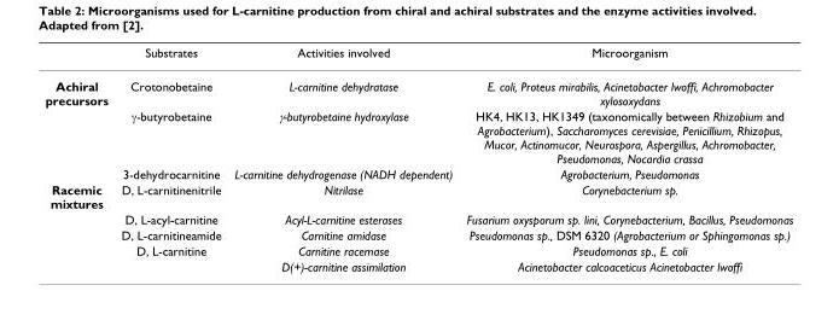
<table><thead><tr><td></td><td>Substrates</td><td>Activities involved</td><td>Microorganism</td></tr></thead><tbody><tr><td rowspan="3">Achiral precursors</td><td>Crotonobetaine</td><td>L-carnitine dehydratase</td><td>E. coli, Proteus mirabilis, Acinetobacter lwoffi, Achromobacter xylosoxydans</td></tr><tr><td>γ-butyrobetaine</td><td>γ-butyrobetaine hydroxylase</td><td>HK4, HK13, HK1349 (taxonomically between Rhizobium and Agrobacterium), Saccharomyces cerevisiae, Penicillium, Rhizopus, Mucor, Actinomucor, Neurospora, Aspergillus, Achromobacter, Pseudomonas, Nocardia crassa</td></tr><tr><td>3-dehydrocarnitine</td><td>L-carnitine dehydrogenase (NADH dependent)</td><td>Agrobacterium, Pseudomonas</td></tr><tr><td rowspan="5">Racemic mixtures</td><td>D, L-carnitinenitrile</td><td>Nitrilase</td><td>Corynebacterium sp.</td></tr><tr><td>D, L-acyl-carnitine</td><td>Acyl-L-carnitine esterases</td><td>Fusarium oxysporum sp. lini, Corynebacterium, Bacillus, Pseudomonas</td></tr><tr><td>D, L-carnitineamide</td><td>Carnitine amidase</td><td>Pseudomonas sp., DSM 6320 (Agrobacterium or Sphingomonas sp.)</td></tr><tr><td>D, L-carnitine</td><td>Carnitine racemase</td><td>Pseudomonas sp., E. coli</td></tr><tr><td></td><td>D(+)-carnitine assimilation</td><td>Acinetobacter calcoaceticus Acinetobacter lwoffi</td></tr></tbody></table>